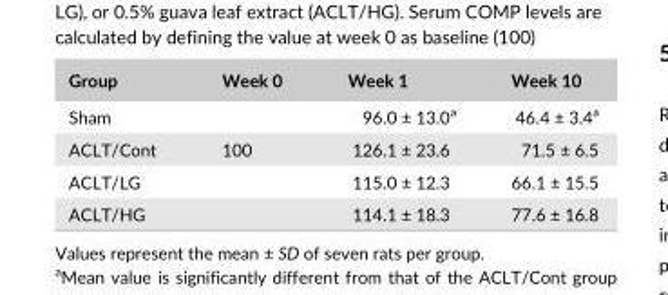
<table><thead><tr><td>Group</td><td>Week 0</td><td>Week 1</td><td>Week 10</td></tr></thead><tbody><tr><td>Sham</td><td></td><td>96.0 ± 13.0<sup>a</sup></td><td>46.4 ± 3.4<sup>a</sup></td></tr><tr><td>ACLT/Cont</td><td>100</td><td>126.1 ± 23.6</td><td>71.5 ± 6.5</td></tr><tr><td>ACLT/LG</td><td></td><td>115.0 ± 12.3</td><td>66.1 ± 15.5</td></tr><tr><td>ACLT/HG</td><td></td><td>114.1 ± 18.3</td><td>77.6 ± 16.8</td></tr></tbody></table>